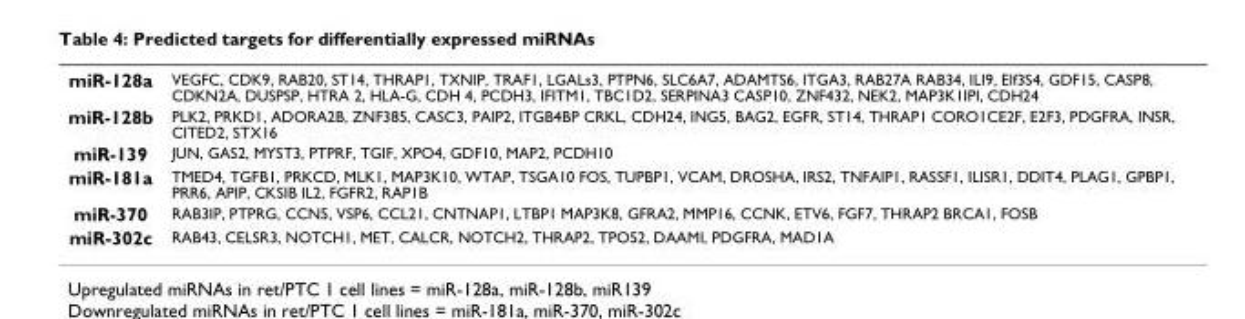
<table><tbody><tr><td>miR-128a</td><td>VEGFC, CDK9, RAB20, ST14, THRAP1, TXNIP, TRAF1, LGALs3, PTPN6, SLC6A7, ADAMTS6, ITGA3, RAB27A RAB34, ILI9, Elf3S4, GDF15, CASP8, CDKN2A, DUSPSP, HTRA 2, HLA-G, CDH 4, PCDH3, IFITM1, TBC1D2, SERPINA3 CASP10, ZNF432, NEK2, MAP3K1IPI, CDH24</td></tr><tr><td>miR-128b</td><td>PLK2, PRKD1, ADORA2B, ZNF385, CASC3, PAIP2, ITGB4BP CRKL, CDH24, ING5, BAG2, EGFR, ST14, THRAP1 CORO1CE2F, E2F3, PDGFRA, INSR, CITED2, STX16</td></tr><tr><td>miR-139</td><td>JUN, GAS2, MYST3, PTPRF, TGIF, XPO4, GDF10, MAP2, PCDH10</td></tr><tr><td>miR-181a</td><td>TMED4, TGFB1, PRKCD, MLK1, MAP3K10, WTAP, TSGA10 FOS, TUPBP1, VCAM, DROSHA, IRS2, TNFAIP1, RASSF1, ILISR1, DDIT4, PLAG1, GPBP1, PRR6, APIP, CKSIB IL2, FGFR2, RAP1B</td></tr><tr><td>miR-370</td><td>RAB3IP, PTPRG, CCN5, VSP6, CCL21, CNTNAP1, LTBP1 MAP3K8, GFRA2, MMP16, CCNK, ETV6, FGF7, THRAP2 BRCA1, FOSB</td></tr><tr><td>miR-302c</td><td>RAB43, CELSR3, NOTCH1, MET, CALCR, NOTCH2, THRAP2, TPO52, DAAMI, PDGFRA, MAD1A</td></tr></tbody></table>